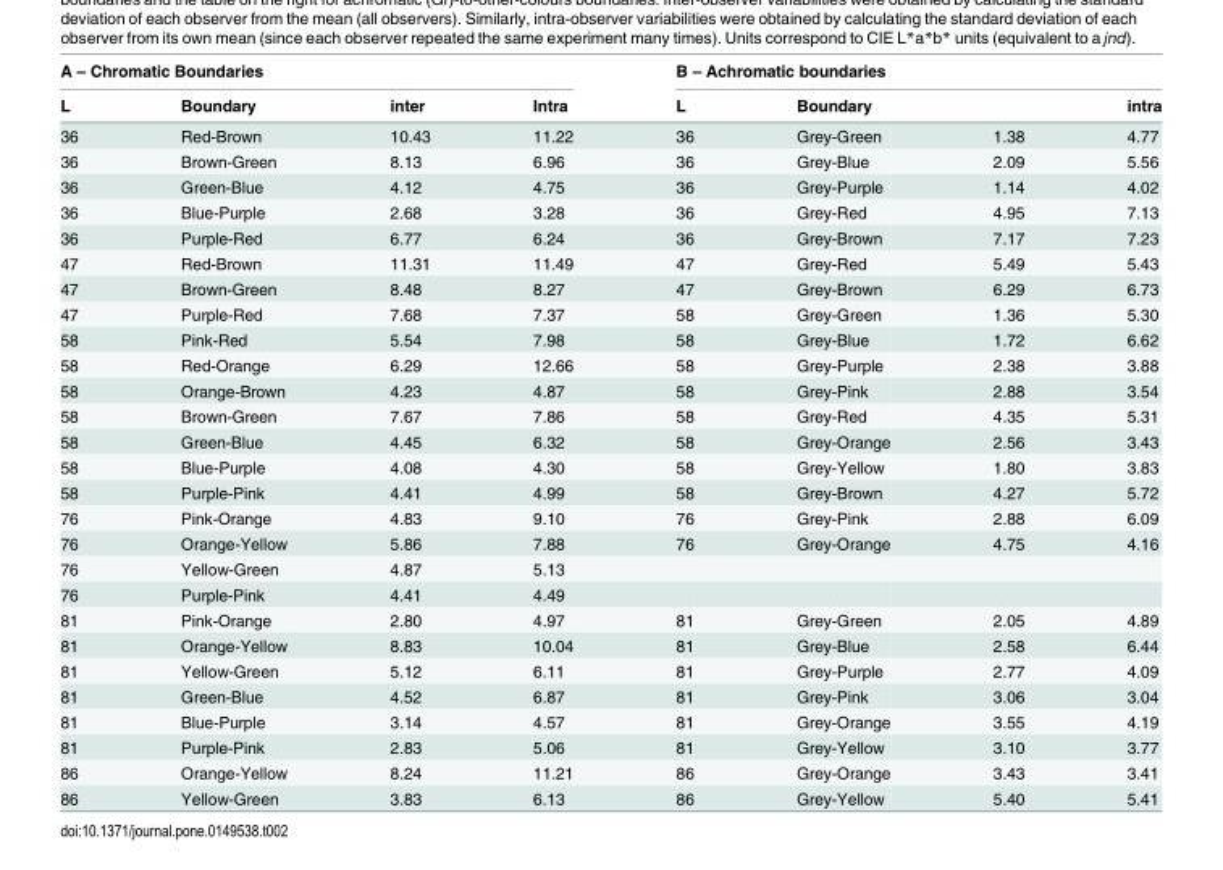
<table><thead><tr><td colspan="4">A – Chromatic Boundaries</td><td colspan="4">B – Achromatic boundaries</td></tr><tr><td>L</td><td>Boundary</td><td>inter</td><td>Intra</td><td>L</td><td>Boundary</td><td></td><td>intra</td></tr></thead><tbody><tr><td>36</td><td>Red-Brown</td><td>10.43</td><td>11.22</td><td>36</td><td>Grey-Green</td><td>1.38</td><td>4.77</td></tr><tr><td>36</td><td>Brown-Green</td><td>8.13</td><td>6.96</td><td>36</td><td>Grey-Blue</td><td>2.09</td><td>5.56</td></tr><tr><td>36</td><td>Green-Blue</td><td>4.12</td><td>4.75</td><td>36</td><td>Grey-Purple</td><td>1.14</td><td>4.02</td></tr><tr><td>36</td><td>Blue-Purple</td><td>2.68</td><td>3.28</td><td>36</td><td>Grey-Red</td><td>4.95</td><td>7.13</td></tr><tr><td>36</td><td>Purple-Red</td><td>6.77</td><td>6.24</td><td>36</td><td>Grey-Brown</td><td>7.17</td><td>7.23</td></tr><tr><td>47</td><td>Red-Brown</td><td>11.31</td><td>11.49</td><td>47</td><td>Grey-Red</td><td>5.49</td><td>5.43</td></tr><tr><td>47</td><td>Brown-Green</td><td>8.48</td><td>8.27</td><td>47</td><td>Grey-Brown</td><td>6.29</td><td>6.73</td></tr><tr><td>47</td><td>Purple-Red</td><td>7.68</td><td>7.37</td><td>58</td><td>Grey-Green</td><td>1.36</td><td>5.30</td></tr><tr><td>58</td><td>Pink-Red</td><td>5.54</td><td>7.98</td><td>58</td><td>Grey-Blue</td><td>1.72</td><td>6.62</td></tr><tr><td>58</td><td>Red-Orange</td><td>6.29</td><td>12.66</td><td>58</td><td>Grey-Purple</td><td>2.38</td><td>3.88</td></tr><tr><td>58</td><td>Orange-Brown</td><td>4.23</td><td>4.87</td><td>58</td><td>Grey-Pink</td><td>2.88</td><td>3.54</td></tr><tr><td>58</td><td>Brown-Green</td><td>7.67</td><td>7.86</td><td>58</td><td>Grey-Red</td><td>4.35</td><td>5.31</td></tr><tr><td>58</td><td>Green-Blue</td><td>4.45</td><td>6.32</td><td>58</td><td>Grey-Orange</td><td>2.56</td><td>3.43</td></tr><tr><td>58</td><td>Blue-Purple</td><td>4.08</td><td>4.30</td><td>58</td><td>Grey-Yellow</td><td>1.80</td><td>3.83</td></tr><tr><td>58</td><td>Purple-Pink</td><td>4.41</td><td>4.99</td><td>58</td><td>Grey-Brown</td><td>4.27</td><td>5.72</td></tr><tr><td>76</td><td>Pink-Orange</td><td>4.83</td><td>9.10</td><td>76</td><td>Grey-Pink</td><td>2.88</td><td>6.09</td></tr><tr><td>76</td><td>Orange-Yellow</td><td>5.86</td><td>7.88</td><td>76</td><td>Grey-Orange</td><td>4.75</td><td>4.16</td></tr><tr><td>76</td><td>Yellow-Green</td><td>4.87</td><td>5.13</td><td></td><td></td><td></td><td></td></tr><tr><td>76</td><td>Purple-Pink</td><td>4.41</td><td>4.49</td><td></td><td></td><td></td><td></td></tr><tr><td>81</td><td>Pink-Orange</td><td>2.80</td><td>4.97</td><td>81</td><td>Grey-Green</td><td>2.05</td><td>4.89</td></tr><tr><td>81</td><td>Orange-Yellow</td><td>8.83</td><td>10.04</td><td>81</td><td>Grey-Blue</td><td>2.58</td><td>6.44</td></tr><tr><td>81</td><td>Yellow-Green</td><td>5.12</td><td>6.11</td><td>81</td><td>Grey-Purple</td><td>2.77</td><td>4.09</td></tr><tr><td>81</td><td>Green-Blue</td><td>4.52</td><td>6.87</td><td>81</td><td>Grey-Pink</td><td>3.06</td><td>3.04</td></tr><tr><td>81</td><td>Blue-Purple</td><td>3.14</td><td>4.57</td><td>81</td><td>Grey-Orange</td><td>3.55</td><td>4.19</td></tr><tr><td>81</td><td>Purple-Pink</td><td>2.83</td><td>5.06</td><td>81</td><td>Grey-Yellow</td><td>3.10</td><td>3.77</td></tr><tr><td>86</td><td>Orange-Yellow</td><td>8.24</td><td>11.21</td><td>86</td><td>Grey-Orange</td><td>3.43</td><td>3.41</td></tr><tr><td>86</td><td>Yellow-Green</td><td>3.83</td><td>6.13</td><td>86</td><td>Grey-Yellow</td><td>5.40</td><td>5.41</td></tr></tbody></table>